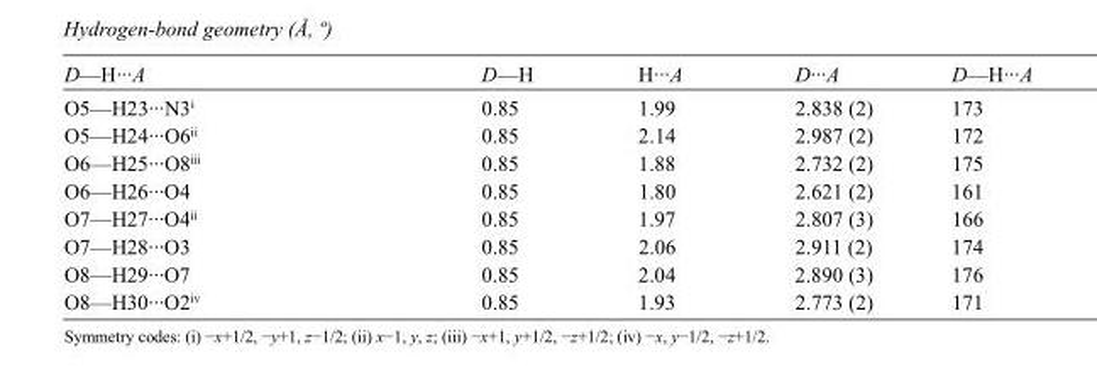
<table><tbody><tr><td>D—H···A</td><td>D—H</td><td>H···A</td><td>D···A</td><td>D—H···A</td></tr><tr><td>O5—H23···N3<sup>i</sup></td><td>0.85</td><td>1.99</td><td>2.838 (2)</td><td>173</td></tr><tr><td>O5—H24···O6<sup>ii</sup></td><td>0.85</td><td>2.14</td><td>2.987 (2)</td><td>172</td></tr><tr><td>O6—H25···O8<sup>iii</sup></td><td>0.85</td><td>1.88</td><td>2.732 (2)</td><td>175</td></tr><tr><td>O6—H26···O4</td><td>0.85</td><td>1.80</td><td>2.621 (2)</td><td>161</td></tr><tr><td>O7—H27···O4<sup>ii</sup></td><td>0.85</td><td>1.97</td><td>2.807 (3)</td><td>166</td></tr><tr><td>O7—H28···O3</td><td>0.85</td><td>2.06</td><td>2.911 (2)</td><td>174</td></tr><tr><td>O8—H29···O7</td><td>0.85</td><td>2.04</td><td>2.890 (3)</td><td>176</td></tr><tr><td>O8—H30···O2<sup>iv</sup></td><td>0.85</td><td>1.93</td><td>2.773 (2)</td><td>171</td></tr></tbody></table>